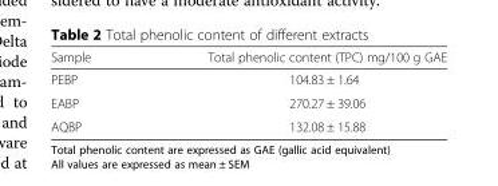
<table><thead><tr><td>Sample</td><td>Total phenolic content (TPC) mg/100 g GAE</td></tr></thead><tbody><tr><td>PEBP</td><td>104.83 ± 1.64</td></tr><tr><td>EABP</td><td>270.27 ± 39.06</td></tr><tr><td>AQBP</td><td>132.08 ± 15.88</td></tr></tbody></table>